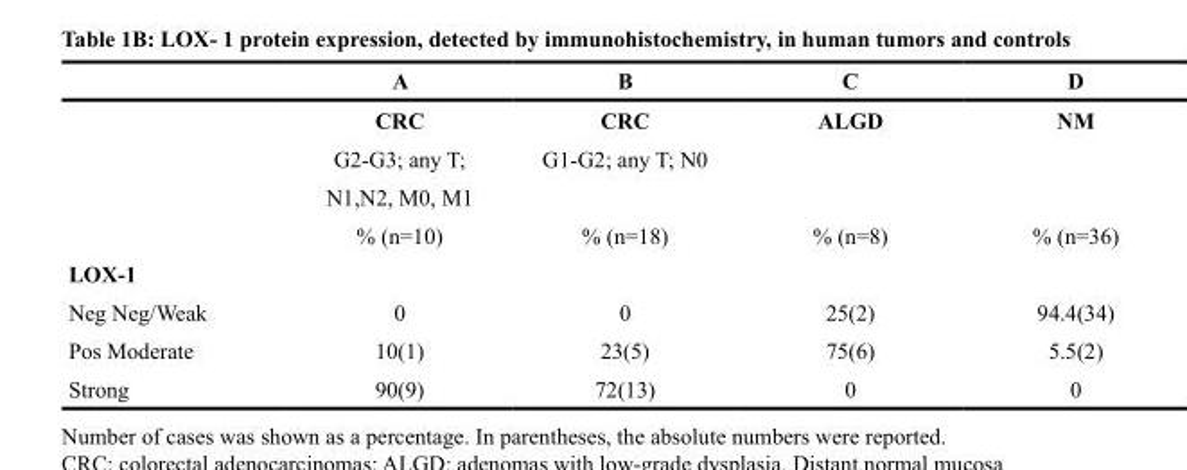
<table><thead><tr><td></td><td>A</td><td>B</td><td>C</td><td>D</td></tr></thead><tbody><tr><td></td><td>CRC</td><td>CRC</td><td>ALGD</td><td>NM</td></tr><tr><td></td><td>G2-G3; any T;</td><td>G1-G2; any T; N0</td><td></td><td></td></tr><tr><td></td><td>N1,N2, M0, M1</td><td></td><td></td><td></td></tr><tr><td></td><td>% (n=10)</td><td>% (n=18)</td><td>% (n=8)</td><td>% (n=36)</td></tr><tr><td colspan="5">LOX-1</td></tr><tr><td>Neg Neg/Weak</td><td>0</td><td>0</td><td>25(2)</td><td>94.4(34)</td></tr><tr><td>Pos Moderate</td><td>10(1)</td><td>23(5)</td><td>75(6)</td><td>5.5(2)</td></tr><tr><td>Strong</td><td>90(9)</td><td>72(13)</td><td>0</td><td>0</td></tr></tbody></table>